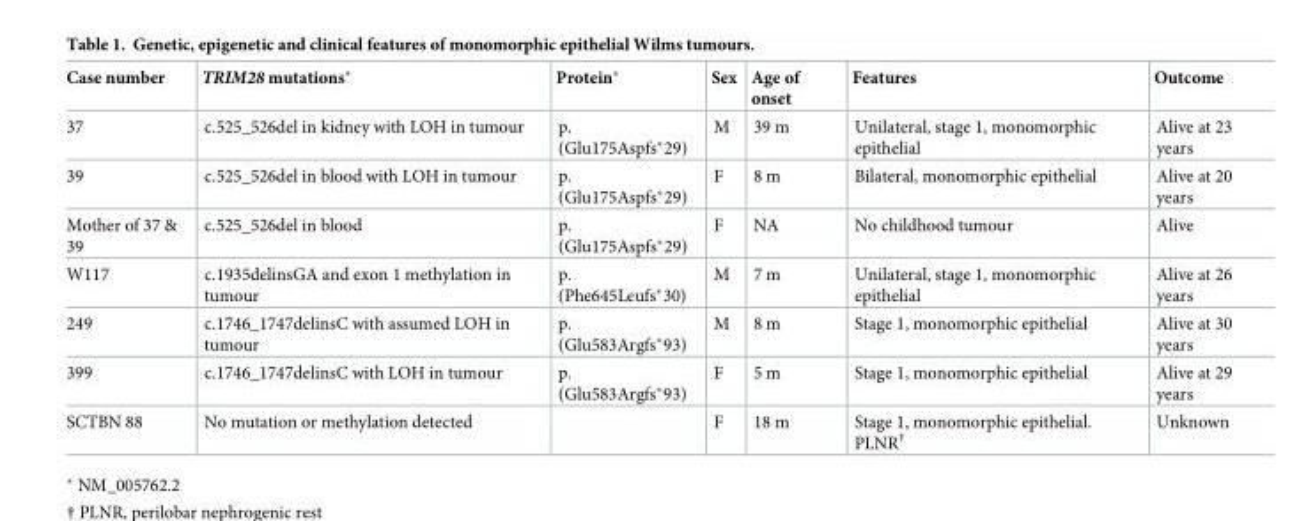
<table><thead><tr><td>Case number</td><td>TRIM28 mutations*</td><td>Protein*</td><td>Sex</td><td>Age of onset</td><td>Features</td><td>Outcome</td></tr></thead><tbody><tr><td>37</td><td>c.525_526del in kidney with LOH in tumour</td><td>p. (Glu175Aspfs*29)</td><td>M</td><td>39 m</td><td>Unilateral, stage 1, monomorphic epithelial</td><td>Alive at 23 years</td></tr><tr><td>39</td><td>c.525_526del in blood with LOH in tumour</td><td>p. (Glu175Aspfs*29)</td><td>F</td><td>8 m</td><td>Bilateral, monomorphic epithelial</td><td>Alive at 20 years</td></tr><tr><td>Mother of 37 &amp; 39</td><td>c.525_526del in blood</td><td>p. (Glu175Aspfs*29)</td><td>F</td><td>NA</td><td>No childhood tumour</td><td>Alive</td></tr><tr><td>W117</td><td>c.1935delinsGA and exon 1 methylation in tumour</td><td>p. (Phe645Leufs*30)</td><td>M</td><td>7 m</td><td>Unilateral, stage 1, monomorphic epithelial</td><td>Alive at 26 years</td></tr><tr><td>249</td><td>c.1746_1747delinsC with assumed LOH in tumour</td><td>p. (Glu583Argfs*93)</td><td>M</td><td>8 m</td><td>Stage 1, monomorphic epithelial</td><td>Alive at 30 years</td></tr><tr><td>399</td><td>c.1746_1747delinsC with LOH in tumour</td><td>p. (Glu583Argfs*93)</td><td>F</td><td>5 m</td><td>Stage 1, monomorphic epithelial</td><td>Alive at 29 years</td></tr><tr><td>SCTBN 88</td><td>No mutation or methylation detected</td><td></td><td>F</td><td>18 m</td><td>Stage 1, monomorphic epithelial. PLNR<sup>†</sup></td><td>Unknown</td></tr></tbody></table>